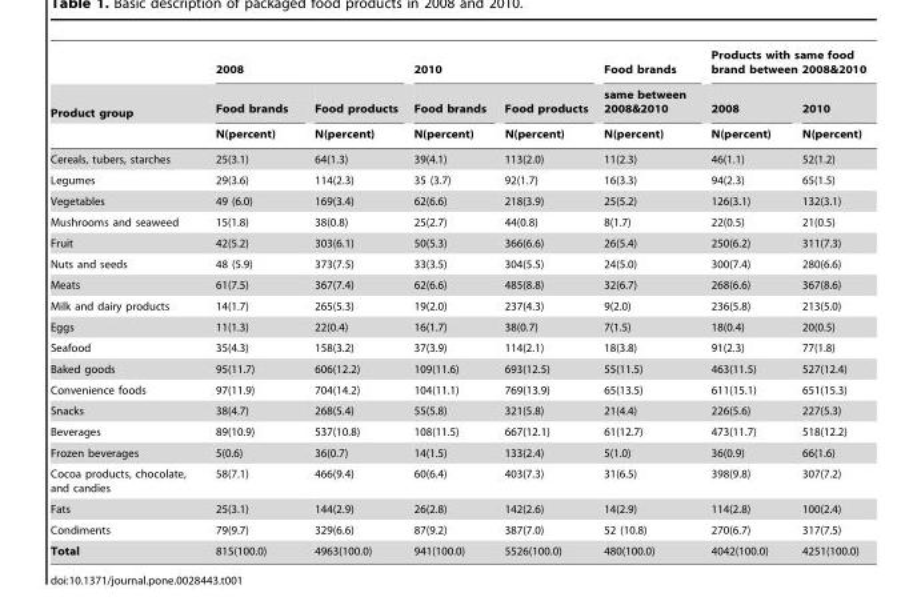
<table><thead><tr><td rowspan="3">Product group</td><td colspan="2">2008</td><td colspan="2">2010</td><td rowspan="3">Food brands same between 2008&amp;2010 N(percent)</td><td colspan="2">Products with same food brand between 2008&amp;2010</td></tr><tr><td rowspan="2">Food brands N(percent)</td><td rowspan="2">Food products N(percent)</td><td rowspan="2">Food brands N(percent)</td><td rowspan="2">Food products N(percent)</td><td rowspan="2">2008 N(percent)</td><td rowspan="2">2010 N(percent)</td></tr><tr></tr></thead><tbody><tr><td>Cereals, tubers, starches</td><td>25(3.1)</td><td>64(1.3)</td><td>39(4.1)</td><td>113(2.0)</td><td>11(2.3)</td><td>46(1.1)</td><td>52(1.2)</td></tr><tr><td>Legumes</td><td>29(3.6)</td><td>114(2.3)</td><td>35 (3.7)</td><td>92(1.7)</td><td>16(3.3)</td><td>94(2.3)</td><td>65(1.5)</td></tr><tr><td>Vegetables</td><td>49 (6.0)</td><td>169(3.4)</td><td>62(6.6)</td><td>218(3.9)</td><td>25(5.2)</td><td>126(3.1)</td><td>132(3.1)</td></tr><tr><td>Mushrooms and seaweed</td><td>15(1.8)</td><td>38(0.8)</td><td>25(2.7)</td><td>44(0.8)</td><td>8(1.7)</td><td>22(0.5)</td><td>21(0.5)</td></tr><tr><td>Fruit</td><td>42(5.2)</td><td>303(6.1)</td><td>50(5.3)</td><td>366(6.6)</td><td>26(5.4)</td><td>250(6.2)</td><td>311(7.3)</td></tr><tr><td>Nuts and seeds</td><td>48 (5.9)</td><td>373(7.5)</td><td>33(3.5)</td><td>304(5.5)</td><td>24(5.0)</td><td>300(7.4)</td><td>280(6.6)</td></tr><tr><td>Meats</td><td>61(7.5)</td><td>367(7.4)</td><td>62(6.6)</td><td>485(8.8)</td><td>32(6.7)</td><td>268(6.6)</td><td>367(8.6)</td></tr><tr><td>Milk and dairy products</td><td>14(1.7)</td><td>265(5.3)</td><td>19(2.0)</td><td>237(4.3)</td><td>9(2.0)</td><td>236(5.8)</td><td>213(5.0)</td></tr><tr><td>Eggs</td><td>11(1.3)</td><td>22(0.4)</td><td>16(1.7)</td><td>38(0.7)</td><td>7(1.5)</td><td>18(0.4)</td><td>20(0.5)</td></tr><tr><td>Seafood</td><td>35(4.3)</td><td>158(3.2)</td><td>37(3.9)</td><td>114(2.1)</td><td>18(3.8)</td><td>91(2.3)</td><td>77(1.8)</td></tr><tr><td>Baked goods</td><td>95(11.7)</td><td>606(12.2)</td><td>109(11.6)</td><td>693(12.5)</td><td>55(11.5)</td><td>463(11.5)</td><td>527(12.4)</td></tr><tr><td>Convenience foods</td><td>97(11.9)</td><td>704(14.2)</td><td>104(11.1)</td><td>769(13.9)</td><td>65(13.5)</td><td>611(15.1)</td><td>651(15.3)</td></tr><tr><td>Snacks</td><td>38(4.7)</td><td>268(5.4)</td><td>55(5.8)</td><td>321(5.8)</td><td>21(4.4)</td><td>226(5.6)</td><td>227(5.3)</td></tr><tr><td>Beverages</td><td>89(10.9)</td><td>537(10.8)</td><td>108(11.5)</td><td>667(12.1)</td><td>61(12.7)</td><td>473(11.7)</td><td>518(12.2)</td></tr><tr><td>Frozen beverages</td><td>5(0.6)</td><td>36(0.7)</td><td>14(1.5)</td><td>133(2.4)</td><td>5(1.0)</td><td>36(0.9)</td><td>66(1.6)</td></tr><tr><td>Cocoa products, chocolate, and candies</td><td>58(7.1)</td><td>466(9.4)</td><td>60(6.4)</td><td>403(7.3)</td><td>31(6.5)</td><td>398(9.8)</td><td>307(7.2)</td></tr><tr><td>Fats</td><td>25(3.1)</td><td>144(2.9)</td><td>26(2.8)</td><td>142(2.6)</td><td>14(2.9)</td><td>114(2.8)</td><td>100(2.4)</td></tr><tr><td>Condiments</td><td>79(9.7)</td><td>329(6.6)</td><td>87(9.2)</td><td>387(7.0)</td><td>52 (10.8)</td><td>270(6.7)</td><td>317(7.5)</td></tr><tr><td>Total</td><td>815(100.0)</td><td>4963(100.0)</td><td>941(100.0)</td><td>5526(100.0)</td><td>480(100.0)</td><td>4042(100.0)</td><td>4251(100.0)</td></tr></tbody></table>